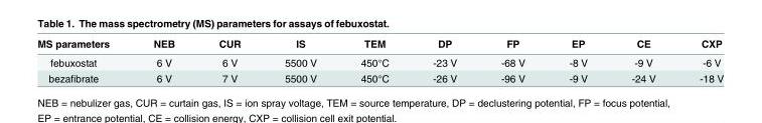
<table><thead><tr><td>MS parameters</td><td>NEB</td><td>CUR</td><td>IS</td><td>TEM</td><td>DP</td><td>FP</td><td>EP</td><td>CE</td><td>CXP</td></tr></thead><tbody><tr><td>febuxostat</td><td>6 V</td><td>6 V</td><td>5500 V</td><td>450°C</td><td>-23 V</td><td>-68 V</td><td>-8 V</td><td>-9 V</td><td>-6 V</td></tr><tr><td>bezafibrate</td><td>6 V</td><td>7 V</td><td>5500 V</td><td>450°C</td><td>-26 V</td><td>-96 V</td><td>-9 V</td><td>-24 V</td><td>-18 V</td></tr></tbody></table>